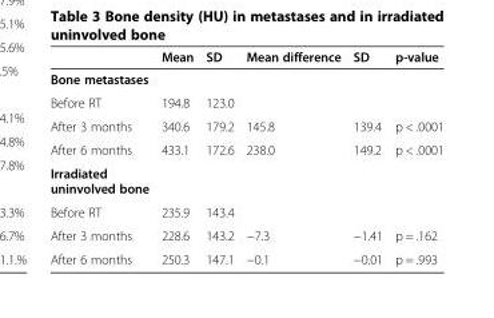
<table><thead><tr><td></td><td>Mean</td><td>SD</td><td>Mean difference</td><td>SD</td><td>p-value</td></tr></thead><tbody><tr><td colspan="6">Bone metastases</td></tr><tr><td>Before RT</td><td>194.8</td><td>123.0</td><td></td><td></td><td></td></tr><tr><td>After 3 months</td><td>340.6</td><td>179.2</td><td>145.8</td><td>139.4</td><td>p &lt; .0001</td></tr><tr><td>After 6 months</td><td>433.1</td><td>172.6</td><td>238.0</td><td>149.2</td><td>p &lt; .0001</td></tr><tr><td colspan="6">Irradiated uninvolved bone</td></tr><tr><td>Before RT</td><td>235.9</td><td>143.4</td><td></td><td></td><td></td></tr><tr><td>After 3 months</td><td>228.6</td><td>143.2</td><td>−7.3</td><td>−1.41</td><td>p = .162</td></tr><tr><td>After 6 months</td><td>250.3</td><td>147.1</td><td>−0.1</td><td>−0.01</td><td>p = .993</td></tr></tbody></table>